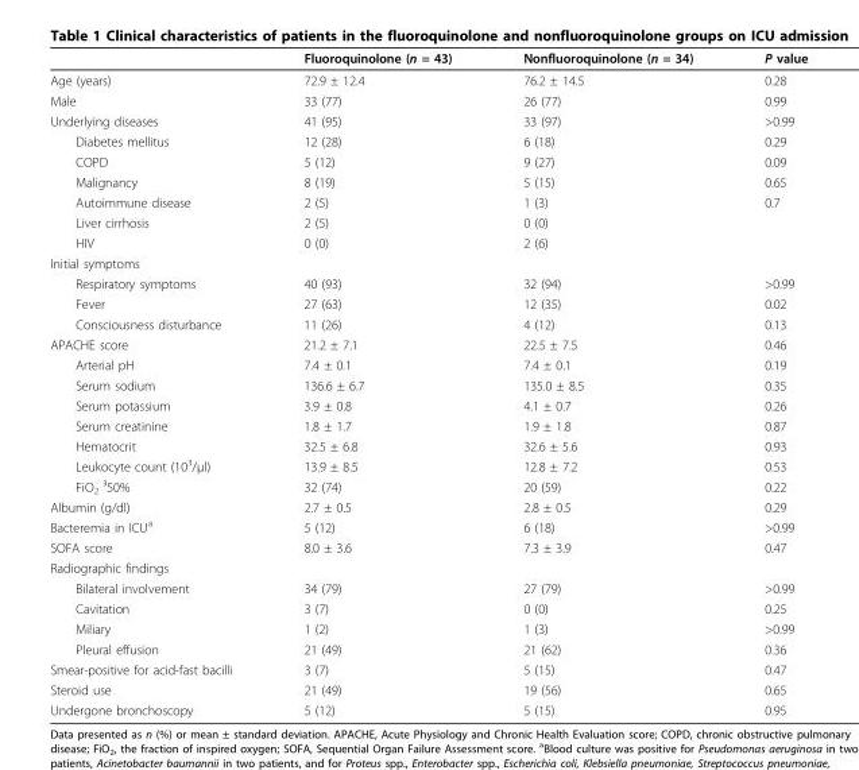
<table><thead><tr><td></td><td>Fluoroquinolone (n = 43)</td><td>Nonfluoroquinolone (n = 34)</td><td>P value</td></tr></thead><tbody><tr><td>Age (years)</td><td>72.9 ± 12.4</td><td>76.2 ± 14.5</td><td>0.28</td></tr><tr><td>Male</td><td>33 (77)</td><td>26 (77)</td><td>0.99</td></tr><tr><td>Underlying diseases</td><td>41 (95)</td><td>33 (97)</td><td>&gt;0.99</td></tr><tr><td>Diabetes mellitus</td><td>12 (28)</td><td>6 (18)</td><td>0.29</td></tr><tr><td>COPD</td><td>5 (12)</td><td>9 (27)</td><td>0.09</td></tr><tr><td>Malignancy</td><td>8 (19)</td><td>5 (15)</td><td>0.65</td></tr><tr><td>Autoimmune disease</td><td>2 (5)</td><td>1 (3)</td><td>0.7</td></tr><tr><td>Liver cirrhosis</td><td>2 (5)</td><td>0 (0)</td><td></td></tr><tr><td>HIV</td><td>0 (0)</td><td>2 (6)</td><td></td></tr><tr><td colspan="4">Initial symptoms</td></tr><tr><td>Respiratory symptoms</td><td>40 (93)</td><td>32 (94)</td><td>&gt;0.99</td></tr><tr><td>Fever</td><td>27 (63)</td><td>12 (35)</td><td>0.02</td></tr><tr><td>Consciousness disturbance</td><td>11 (26)</td><td>4 (12)</td><td>0.13</td></tr><tr><td>APACHE score</td><td>21.2 ± 7.1</td><td>22.5 ± 7.5</td><td>0.46</td></tr><tr><td>Arterial pH</td><td>7.4 ± 0.1</td><td>7.4 ± 0.1</td><td>0.19</td></tr><tr><td>Serum sodium</td><td>136.6 ± 6.7</td><td>135.0 ± 8.5</td><td>0.35</td></tr><tr><td>Serum potassium</td><td>3.9 ± 0.8</td><td>4.1 ± 0.7</td><td>0.26</td></tr><tr><td>Serum creatinine</td><td>1.8 ± 1.7</td><td>1.9 ± 1.8</td><td>0.87</td></tr><tr><td>Hematocrit</td><td>32.5 ± 6.8</td><td>32.6 ± 5.6</td><td>0.93</td></tr><tr><td>Leukocyte count (10<sup>3</sup>/μl)</td><td>13.9 ± 8.5</td><td>12.8 ± 7.2</td><td>0.53</td></tr><tr><td>FiO<sub>2</sub> ³50%</td><td>32 (74)</td><td>20 (59)</td><td>0.22</td></tr><tr><td>Albumin (g/dl)</td><td>2.7 ± 0.5</td><td>2.8 ± 0.5</td><td>0.29</td></tr><tr><td>Bacteremia in ICU<sup>a</sup></td><td>5 (12)</td><td>6 (18)</td><td>&gt;0.99</td></tr><tr><td>SOFA score</td><td>8.0 ± 3.6</td><td>7.3 ± 3.9</td><td>0.47</td></tr><tr><td colspan="4">Radiographic findings</td></tr><tr><td>Bilateral involvement</td><td>34 (79)</td><td>27 (79)</td><td>&gt;0.99</td></tr><tr><td>Cavitation</td><td>3 (7)</td><td>0 (0)</td><td>0.25</td></tr><tr><td>Miliary</td><td>1 (2)</td><td>1 (3)</td><td>&gt;0.99</td></tr><tr><td>Pleural effusion</td><td>21 (49)</td><td>21 (62)</td><td>0.36</td></tr><tr><td>Smear-positive for acid-fast bacilli</td><td>3 (7)</td><td>5 (15)</td><td>0.47</td></tr><tr><td>Steroid use</td><td>21 (49)</td><td>19 (56)</td><td>0.65</td></tr><tr><td>Undergone bronchoscopy</td><td>5 (12)</td><td>5 (15)</td><td>0.95</td></tr></tbody></table>